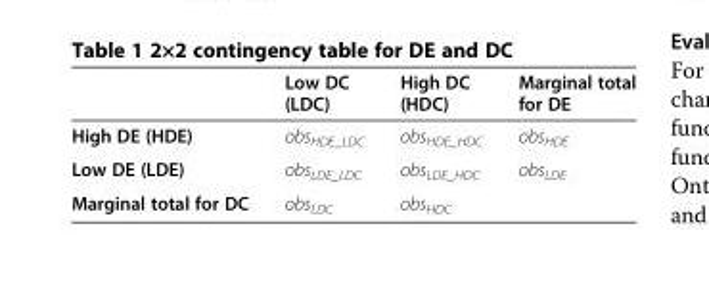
<table><thead><tr><td></td><td>Low DC (LDC)</td><td>High DC (HDC)</td><td>Marginal total for DE</td></tr></thead><tbody><tr><td>High DE (HDE)</td><td>obs<sub>HDE_LDC</sub></td><td>obs<sub>HDE_HDC</sub></td><td>obs<sub>HDE</sub></td></tr><tr><td>Low DE (LDE)</td><td>obs<sub>LDE_LDC</sub></td><td>obs<sub>LDE_HDC</sub></td><td>obs<sub>LDE</sub></td></tr><tr><td>Marginal total for DC</td><td>obs<sub>LDC</sub></td><td>obs<sub>HDC</sub></td><td></td></tr></tbody></table>